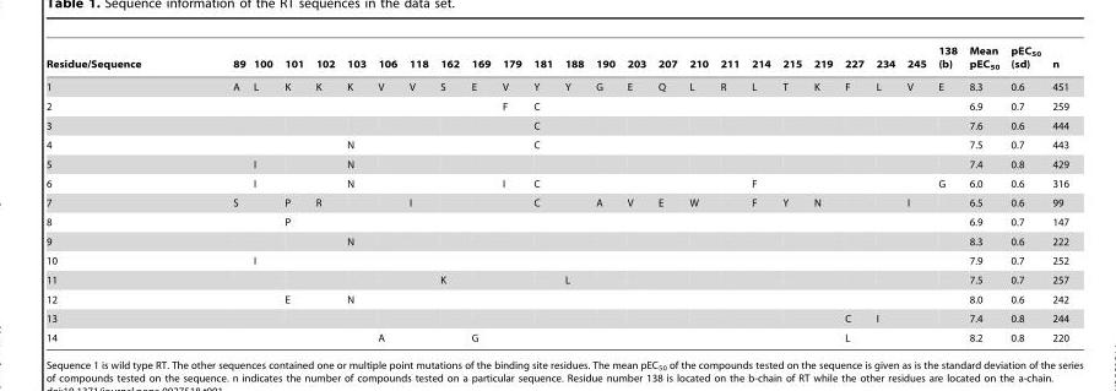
<table><thead><tr><td>Residue/Sequence</td><td>89</td><td>100</td><td>101</td><td>102</td><td>103</td><td>106</td><td>118</td><td>162</td><td>169</td><td>179</td><td>181</td><td>188</td><td>190</td><td>203</td><td>207</td><td>210</td><td>211</td><td>214</td><td>215</td><td>219</td><td>227</td><td>234</td><td>245</td><td>138 (b)</td><td>Mean pEC<sub>50</sub></td><td>pEC<sub>50</sub> (sd)</td><td>n</td></tr></thead><tbody><tr><td>1</td><td>A</td><td>L</td><td>K</td><td>K</td><td>K</td><td>V</td><td>V</td><td>S</td><td>E</td><td>V</td><td>Y</td><td>Y</td><td>G</td><td>E</td><td>Q</td><td>L</td><td>R</td><td>L</td><td>T</td><td>K</td><td>F</td><td>L</td><td>V</td><td>E</td><td>8.3</td><td>0.6</td><td>451</td></tr><tr><td>2</td><td></td><td></td><td></td><td></td><td></td><td></td><td></td><td></td><td></td><td>F</td><td>C</td><td></td><td></td><td></td><td></td><td></td><td></td><td></td><td></td><td></td><td></td><td></td><td></td><td></td><td>6.9</td><td>0.7</td><td>259</td></tr><tr><td>3</td><td></td><td></td><td></td><td></td><td></td><td></td><td></td><td></td><td></td><td></td><td>C</td><td></td><td></td><td></td><td></td><td></td><td></td><td></td><td></td><td></td><td></td><td></td><td></td><td></td><td>7.6</td><td>0.6</td><td>444</td></tr><tr><td>4</td><td></td><td></td><td></td><td></td><td>N</td><td></td><td></td><td></td><td></td><td></td><td>C</td><td></td><td></td><td></td><td></td><td></td><td></td><td></td><td></td><td></td><td></td><td></td><td></td><td></td><td>7.5</td><td>0.7</td><td>443</td></tr><tr><td>5</td><td></td><td>I</td><td></td><td></td><td>N</td><td></td><td></td><td></td><td></td><td></td><td></td><td></td><td></td><td></td><td></td><td></td><td></td><td></td><td></td><td></td><td></td><td></td><td></td><td></td><td>7.4</td><td>0.8</td><td>429</td></tr><tr><td>6</td><td></td><td>I</td><td></td><td></td><td>N</td><td></td><td></td><td></td><td></td><td>I</td><td>C</td><td></td><td></td><td></td><td></td><td></td><td></td><td>F</td><td></td><td></td><td></td><td></td><td></td><td>G</td><td>6.0</td><td>0.6</td><td>316</td></tr><tr><td>7</td><td>S</td><td></td><td>P</td><td>R</td><td></td><td></td><td>I</td><td></td><td></td><td></td><td>C</td><td></td><td>A</td><td>V</td><td>E</td><td>W</td><td></td><td>F</td><td>Y</td><td>N</td><td></td><td></td><td>I</td><td></td><td>6.5</td><td>0.6</td><td>99</td></tr><tr><td>8</td><td></td><td></td><td>P</td><td></td><td></td><td></td><td></td><td></td><td></td><td></td><td></td><td></td><td></td><td></td><td></td><td></td><td></td><td></td><td></td><td></td><td></td><td></td><td></td><td></td><td>6.9</td><td>0.7</td><td>147</td></tr><tr><td>9</td><td></td><td></td><td></td><td></td><td>N</td><td></td><td></td><td></td><td></td><td></td><td></td><td></td><td></td><td></td><td></td><td></td><td></td><td></td><td></td><td></td><td></td><td></td><td></td><td></td><td>8.3</td><td>0.6</td><td>222</td></tr><tr><td>10</td><td></td><td>I</td><td></td><td></td><td></td><td></td><td></td><td></td><td></td><td></td><td></td><td></td><td></td><td></td><td></td><td></td><td></td><td></td><td></td><td></td><td></td><td></td><td></td><td></td><td>7.9</td><td>0.7</td><td>252</td></tr><tr><td>11</td><td></td><td></td><td></td><td></td><td></td><td></td><td></td><td>K</td><td></td><td></td><td></td><td>L</td><td></td><td></td><td></td><td></td><td></td><td></td><td></td><td></td><td></td><td></td><td></td><td></td><td>7.5</td><td>0.7</td><td>257</td></tr><tr><td>12</td><td></td><td></td><td>E</td><td></td><td>N</td><td></td><td></td><td></td><td></td><td></td><td></td><td></td><td></td><td></td><td></td><td></td><td></td><td></td><td></td><td></td><td></td><td></td><td></td><td></td><td>8.0</td><td>0.6</td><td>242</td></tr><tr><td>13</td><td></td><td></td><td></td><td></td><td></td><td></td><td></td><td></td><td></td><td></td><td></td><td></td><td></td><td></td><td></td><td></td><td></td><td></td><td></td><td></td><td>C</td><td>I</td><td></td><td></td><td>7.4</td><td>0.8</td><td>244</td></tr><tr><td>14</td><td></td><td></td><td></td><td></td><td></td><td>A</td><td></td><td></td><td>G</td><td></td><td></td><td></td><td></td><td></td><td></td><td></td><td></td><td></td><td></td><td></td><td>L</td><td></td><td></td><td></td><td>8.2</td><td>0.8</td><td>220</td></tr></tbody></table>